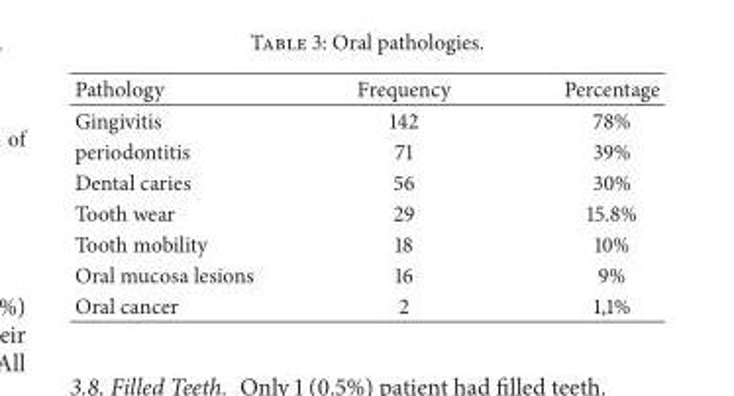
<table><thead><tr><td>Pathology</td><td>Frequency</td><td>Percentage</td></tr></thead><tbody><tr><td>Gingivitis</td><td>142</td><td>78%</td></tr><tr><td>periodontitis</td><td>71</td><td>39%</td></tr><tr><td>Dental caries</td><td>56</td><td>30%</td></tr><tr><td>Tooth wear</td><td>29</td><td>15.8%</td></tr><tr><td>Tooth mobility</td><td>18</td><td>10%</td></tr><tr><td>Oral mucosa lesions</td><td>16</td><td>9%</td></tr><tr><td>Oral cancer</td><td>2</td><td>1,1%</td></tr></tbody></table>